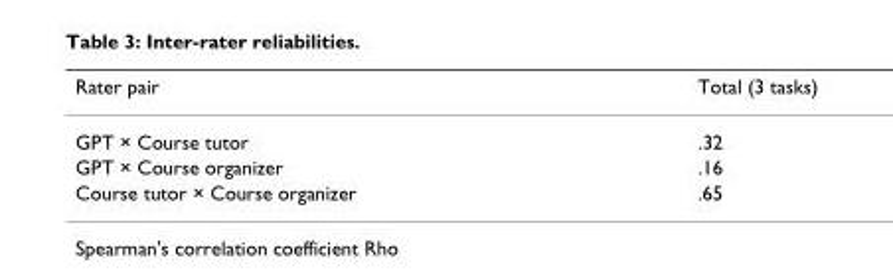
<table><thead><tr><td>Rater pair</td><td>Total (3 tasks)</td></tr></thead><tbody><tr><td>GPT × Course tutor</td><td>.32</td></tr><tr><td>GPT × Course organizer</td><td>.16</td></tr><tr><td>Course tutor × Course organizer</td><td>.65</td></tr></tbody></table>